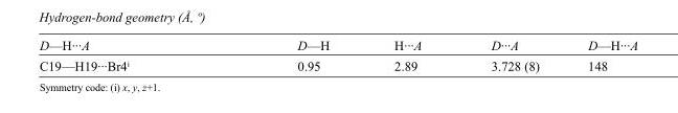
<table><tbody><tr><td>D—H···A</td><td>D—H</td><td>H···A</td><td>D···A</td><td>D—H···A</td></tr><tr><td>C19—H19···Br4<sup>i</sup></td><td>0.95</td><td>2.89</td><td>3.728 (8)</td><td>148</td></tr></tbody></table>